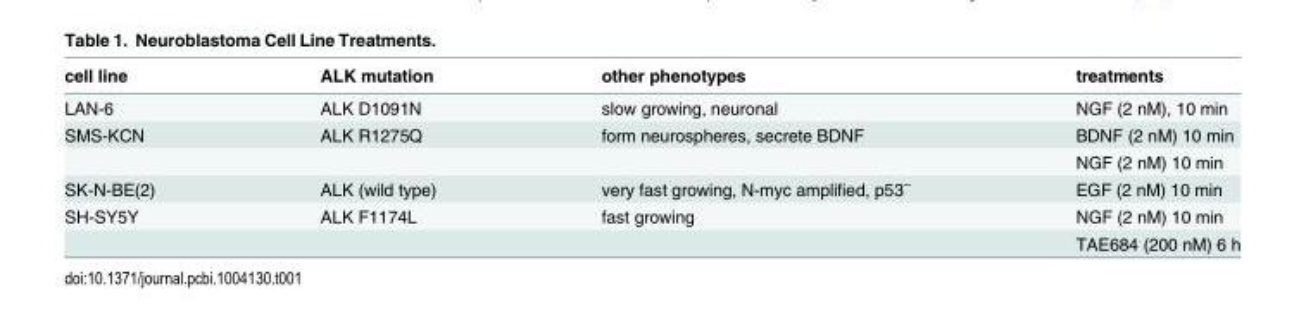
<table><thead><tr><td>cell line</td><td>ALK mutation</td><td>other phenotypes</td><td>treatments</td></tr></thead><tbody><tr><td>LAN-6</td><td>ALK D1091N</td><td>slow growing, neuronal</td><td>NGF (2 nM), 10 min</td></tr><tr><td rowspan="2">SMS-KCN</td><td>ALK R1275Q</td><td>form neurospheres, secrete BDNF</td><td>BDNF (2 nM) 10 min</td></tr><tr><td></td><td></td><td>NGF (2 nM) 10 min</td></tr><tr><td>SK-N-BE(2)</td><td>ALK (wild type)</td><td>very fast growing, N-myc amplified, p53<sup>–</sup></td><td>EGF (2 nM) 10 min</td></tr><tr><td rowspan="2">SH-SY5Y</td><td>ALK F1174L</td><td>fast growing</td><td>NGF (2 nM) 10 min</td></tr><tr><td></td><td></td><td>TAE684 (200 nM) 6 h</td></tr></tbody></table>